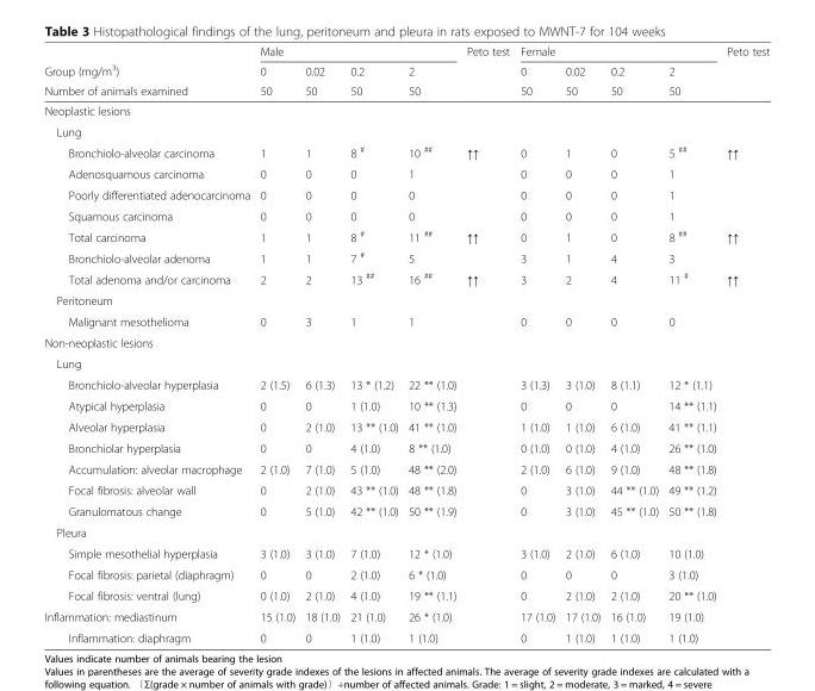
<table><thead><tr><td rowspan="3">Group (mg/m<sup>3</sup>) Number of animals examined</td><td colspan="4">Male</td><td rowspan="3">Peto test</td><td colspan="4">Female</td><td rowspan="3">Peto test</td></tr><tr><td rowspan="2">0 50</td><td rowspan="2">0.02 50</td><td rowspan="2">0.2 50</td><td rowspan="2">2 50</td><td rowspan="2">0 50</td><td rowspan="2">0.02 50</td><td rowspan="2">0.2 50</td><td rowspan="2">2 50</td></tr><tr></tr></thead><tbody><tr><td colspan="11">Neoplastic lesions</td></tr><tr><td colspan="11">Lung</td></tr><tr><td>Bronchiolo-alveolar carcinoma</td><td>1</td><td>1</td><td>8 <sup>#</sup></td><td>10 <sup>##</sup></td><td>↑↑</td><td>0</td><td>1</td><td>0</td><td>5 <sup>##</sup></td><td>↑↑</td></tr><tr><td>Adenosquamous carcinoma</td><td>0</td><td>0</td><td>0</td><td>1</td><td></td><td>0</td><td>0</td><td>0</td><td>1</td><td></td></tr><tr><td>Poorly differentiated adenocarcinoma</td><td>0</td><td>0</td><td>0</td><td>0</td><td></td><td>0</td><td>0</td><td>0</td><td>1</td><td></td></tr><tr><td>Squamous carcinoma</td><td>0</td><td>0</td><td>0</td><td>0</td><td></td><td>0</td><td>0</td><td>0</td><td>1</td><td></td></tr><tr><td>Total carcinoma</td><td>1</td><td>1</td><td>8 <sup>#</sup></td><td>11 <sup>##</sup></td><td>↑↑</td><td>0</td><td>1</td><td>0</td><td>8 <sup>##</sup></td><td>↑↑</td></tr><tr><td>Bronchiolo-alveolar adenoma</td><td>1</td><td>1</td><td>7 <sup>#</sup></td><td>5</td><td></td><td>3</td><td>1</td><td>4</td><td>3</td><td></td></tr><tr><td>Total adenoma and/or carcinoma</td><td>2</td><td>2</td><td>13 <sup>##</sup></td><td>16 <sup>##</sup></td><td>↑↑</td><td>3</td><td>2</td><td>4</td><td>11 <sup>#</sup></td><td>↑↑</td></tr><tr><td colspan="11">Peritoneum</td></tr><tr><td>Malignant mesothelioma</td><td>0</td><td>3</td><td>1</td><td>1</td><td></td><td>0</td><td>0</td><td>0</td><td>0</td><td></td></tr><tr><td colspan="11">Non-neoplastic lesions</td></tr><tr><td colspan="11">Lung</td></tr><tr><td>Bronchiolo-alveolar hyperplasia</td><td>2 (1.5)</td><td>6 (1.3)</td><td>13 * (1.2)</td><td>22 ** (1.0)</td><td></td><td>3 (1.3)</td><td>3 (1.0)</td><td>8 (1.1)</td><td>12 * (1.1)</td><td></td></tr><tr><td>Atypical hyperplasia</td><td>0</td><td>0</td><td>1 (1.0)</td><td>10 ** (1.3)</td><td></td><td>0</td><td>0</td><td>0</td><td>14 ** (1.1)</td><td></td></tr><tr><td>Alveolar hyperplasia</td><td>0</td><td>2 (1.0)</td><td>13 ** (1.0)</td><td>41 ** (1.0)</td><td></td><td>1 (1.0)</td><td>1 (1.0)</td><td>6 (1.0)</td><td>41 ** (1.1)</td><td></td></tr><tr><td>Bronchiolar hyperplasia</td><td>0</td><td>0</td><td>4 (1.0)</td><td>8 ** (1.0)</td><td></td><td>0 (1.0)</td><td>0 (1.0)</td><td>4 (1.0)</td><td>26 ** (1.0)</td><td></td></tr><tr><td>Accumulation: alveolar macrophage</td><td>2 (1.0)</td><td>7 (1.0)</td><td>5 (1.0)</td><td>48 ** (2.0)</td><td></td><td>2 (1.0)</td><td>6 (1.0)</td><td>9 (1.0)</td><td>48 ** (1.8)</td><td></td></tr><tr><td>Focal fibrosis: alveolar wall</td><td>0</td><td>2 (1.0)</td><td>43 ** (1.0)</td><td>48 ** (1.8)</td><td></td><td>0</td><td>3 (1.0)</td><td>44 ** (1.0)</td><td>49 ** (1.2)</td><td></td></tr><tr><td>Granulomatous change</td><td>0</td><td>5 (1.0)</td><td>42 ** (1.0)</td><td>50 ** (1.9)</td><td></td><td>0</td><td>3 (1.0)</td><td>45 ** (1.0)</td><td>50 ** (1.8)</td><td></td></tr><tr><td colspan="11">Pleura</td></tr><tr><td>Simple mesothelial hyperplasia</td><td>3 (1.0)</td><td>3 (1.0)</td><td>7 (1.0)</td><td>12 * (1.0)</td><td></td><td>3 (1.0)</td><td>2 (1.0)</td><td>6 (1.0)</td><td>10 (1.0)</td><td></td></tr><tr><td>Focal fibrosis: parietal (diaphragm)</td><td>0</td><td>0</td><td>2 (1.0)</td><td>6 * (1.0)</td><td></td><td>0</td><td>0</td><td>0</td><td>3 (1.0)</td><td></td></tr><tr><td>Focal fibrosis: ventral (lung)</td><td>0 (1.0)</td><td>2 (1.0)</td><td>4 (1.0)</td><td>19 ** (1.1)</td><td></td><td>0</td><td>2 (1.0)</td><td>2 (1.0)</td><td>20 ** (1.0)</td><td></td></tr><tr><td>Inflammation: mediastinum</td><td>15 (1.0)</td><td>18 (1.0)</td><td>21 (1.0)</td><td>26 * (1.0)</td><td></td><td>17 (1.0)</td><td>17 (1.0)</td><td>16 (1.0)</td><td>19 (1.0)</td><td></td></tr><tr><td>Inflammation: diaphragm</td><td>0</td><td>0</td><td>1 (1.0)</td><td>1 (1.0)</td><td></td><td>0</td><td>1 (1.0)</td><td>1 (1.0)</td><td>1 (1.0)</td><td></td></tr></tbody></table>